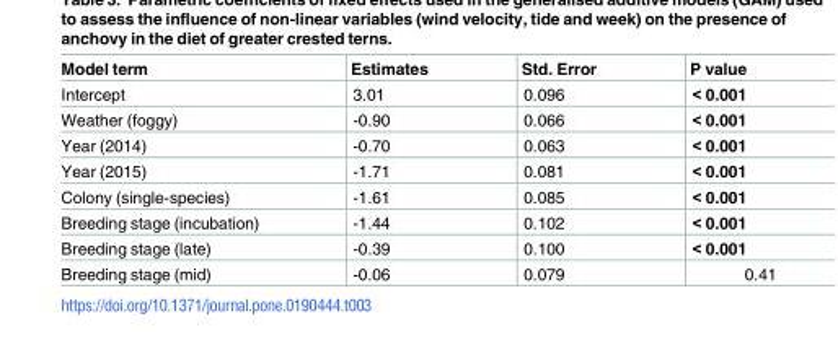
<table><thead><tr><td>Model term</td><td>Estimates</td><td>Std. Error</td><td>P value</td></tr></thead><tbody><tr><td>Intercept</td><td>3.01</td><td>0.096</td><td>&lt; 0.001</td></tr><tr><td>Weather (foggy)</td><td>-0.90</td><td>0.066</td><td>&lt; 0.001</td></tr><tr><td>Year (2014)</td><td>-0.70</td><td>0.063</td><td>&lt; 0.001</td></tr><tr><td>Year (2015)</td><td>-1.71</td><td>0.081</td><td>&lt; 0.001</td></tr><tr><td>Colony (single-species)</td><td>-1.61</td><td>0.085</td><td>&lt; 0.001</td></tr><tr><td>Breeding stage (incubation)</td><td>-1.44</td><td>0.102</td><td>&lt; 0.001</td></tr><tr><td>Breeding stage (late)</td><td>-0.39</td><td>0.100</td><td>&lt; 0.001</td></tr><tr><td>Breeding stage (mid)</td><td>-0.06</td><td>0.079</td><td>0.41</td></tr></tbody></table>